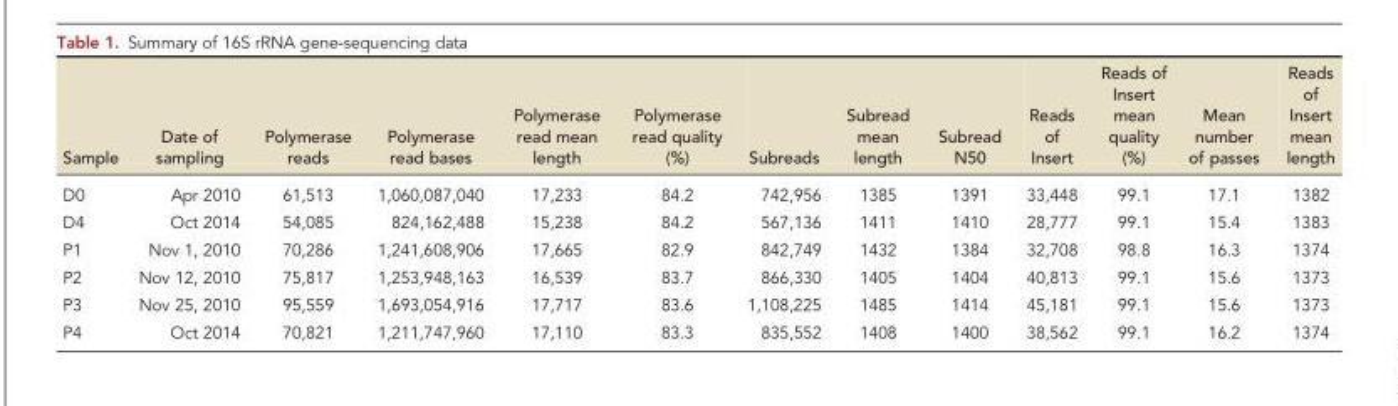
<table><thead><tr><td>Sample</td><td>Date of sampling</td><td>Polymerase reads</td><td>Polymerase read bases</td><td>Polymerase read mean length</td><td>Polymerase read quality (%)</td><td>Subreads</td><td>Subread mean length</td><td>Subread N50</td><td>Reads of Insert</td><td>Reads of Insert mean quality (%)</td><td>Mean number of passes</td><td>Reads of Insert mean length</td></tr></thead><tbody><tr><td>D0</td><td>Apr 2010</td><td>61,513</td><td>1,060,087,040</td><td>17,233</td><td>84.2</td><td>742,956</td><td>1385</td><td>1391</td><td>33,448</td><td>99.1</td><td>17.1</td><td>1382</td></tr><tr><td>D4</td><td>Oct 2014</td><td>54,085</td><td>824,162,488</td><td>15,238</td><td>84.2</td><td>567,136</td><td>1411</td><td>1410</td><td>28,777</td><td>99.1</td><td>15.4</td><td>1383</td></tr><tr><td>P1</td><td>Nov 1, 2010</td><td>70,286</td><td>1,241,608,906</td><td>17,665</td><td>82.9</td><td>842,749</td><td>1432</td><td>1384</td><td>32,708</td><td>98.8</td><td>16.3</td><td>1374</td></tr><tr><td>P2</td><td>Nov 12, 2010</td><td>75,817</td><td>1,253,948,163</td><td>16,539</td><td>83.7</td><td>866,330</td><td>1405</td><td>1404</td><td>40,813</td><td>99.1</td><td>15.6</td><td>1373</td></tr><tr><td>P3</td><td>Nov 25, 2010</td><td>95,559</td><td>1,693,054,916</td><td>17,717</td><td>83.6</td><td>1,108,225</td><td>1485</td><td>1414</td><td>45,181</td><td>99.1</td><td>15.6</td><td>1373</td></tr><tr><td>P4</td><td>Oct 2014</td><td>70,821</td><td>1,211,747,960</td><td>17,110</td><td>83.3</td><td>835,552</td><td>1408</td><td>1400</td><td>38,562</td><td>99.1</td><td>16.2</td><td>1374</td></tr></tbody></table>